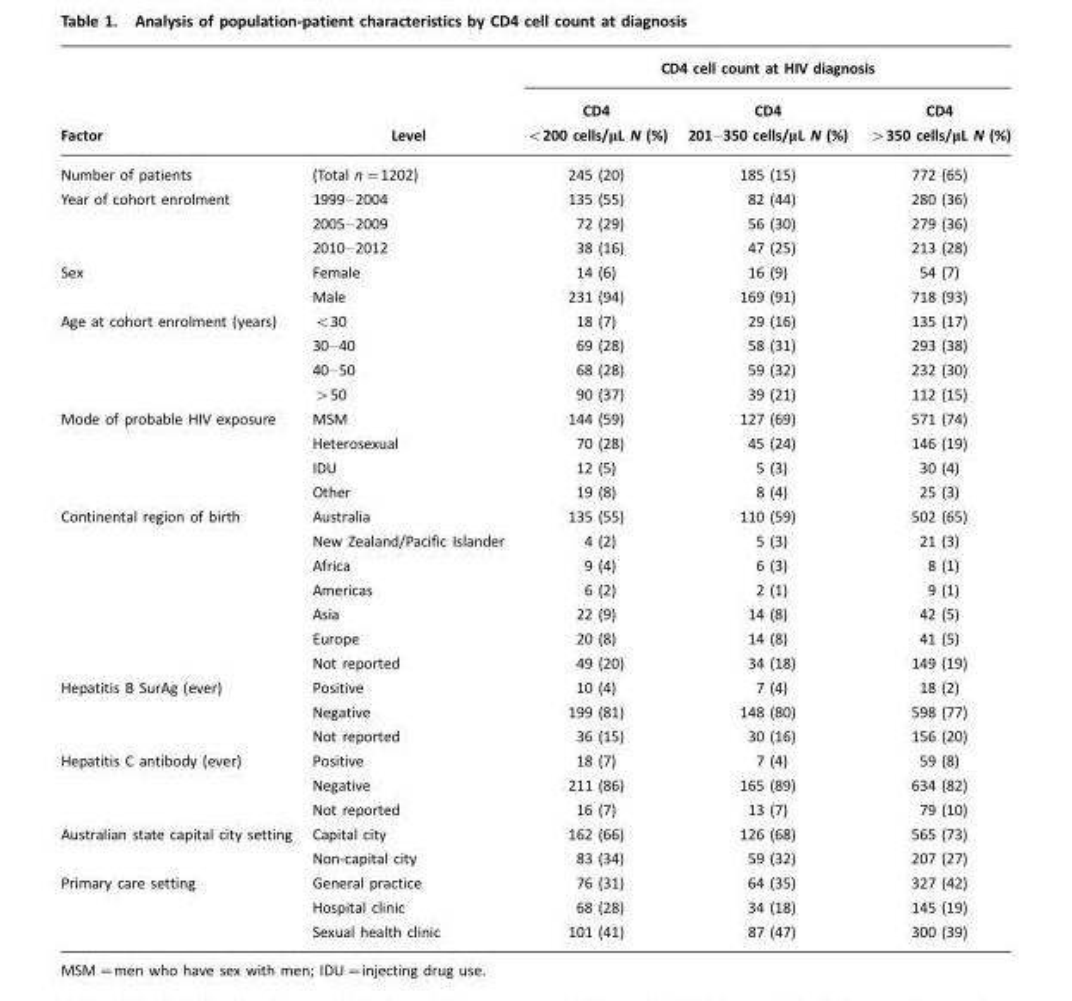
<table><thead><tr><td rowspan="2">Factor</td><td rowspan="2">Level</td><td colspan="3">CD4 cell count at HIV diagnosis</td></tr><tr><td>CD4 &lt;200 cells/µL N (%)</td><td>CD4 201–350 cells/µL N (%)</td><td>CD4 &gt;350 cells/µL N (%)</td></tr></thead><tbody><tr><td>Number of patients</td><td>(Total n=1202)</td><td>245 (20)</td><td>185 (15)</td><td>772 (65)</td></tr><tr><td rowspan="3">Year of cohort enrolment</td><td>1999–2004</td><td>135 (55)</td><td>82 (44)</td><td>280 (36)</td></tr><tr><td>2005–2009</td><td>72 (29)</td><td>56 (30)</td><td>279 (36)</td></tr><tr><td>2010–2012</td><td>38 (16)</td><td>47 (25)</td><td>213 (28)</td></tr><tr><td rowspan="2">Sex</td><td>Female</td><td>14 (6)</td><td>16 (9)</td><td>54 (7)</td></tr><tr><td>Male</td><td>231 (94)</td><td>169 (91)</td><td>718 (93)</td></tr><tr><td rowspan="4">Age at cohort enrolment (years)</td><td>&lt;30</td><td>18 (7)</td><td>29 (16)</td><td>135 (17)</td></tr><tr><td>30–40</td><td>69 (28)</td><td>58 (31)</td><td>293 (38)</td></tr><tr><td>40–50</td><td>68 (28)</td><td>59 (32)</td><td>232 (30)</td></tr><tr><td>&gt;50</td><td>90 (37)</td><td>39 (21)</td><td>112 (15)</td></tr><tr><td rowspan="4">Mode of probable HIV exposure</td><td>MSM</td><td>144 (59)</td><td>127 (69)</td><td>571 (74)</td></tr><tr><td>Heterosexual</td><td>70 (28)</td><td>45 (24)</td><td>146 (19)</td></tr><tr><td>IDU</td><td>12 (5)</td><td>5 (3)</td><td>30 (4)</td></tr><tr><td>Other</td><td>19 (8)</td><td>8 (4)</td><td>25 (3)</td></tr><tr><td rowspan="7">Continental region of birth</td><td>Australia</td><td>135 (55)</td><td>110 (59)</td><td>502 (65)</td></tr><tr><td>New Zealand/Pacific Islander</td><td>4 (2)</td><td>5 (3)</td><td>21 (3)</td></tr><tr><td>Africa</td><td>9 (4)</td><td>6 (3)</td><td>8 (1)</td></tr><tr><td>Americas</td><td>6 (2)</td><td>2 (1)</td><td>9 (1)</td></tr><tr><td>Asia</td><td>22 (9)</td><td>14 (8)</td><td>42 (5)</td></tr><tr><td>Europe</td><td>20 (8)</td><td>14 (8)</td><td>41 (5)</td></tr><tr><td>Not reported</td><td>49 (20)</td><td>34 (18)</td><td>149 (19)</td></tr><tr><td rowspan="3">Hepatitis B SurAg (ever)</td><td>Positive</td><td>10 (4)</td><td>7 (4)</td><td>18 (2)</td></tr><tr><td>Negative</td><td>199 (81)</td><td>148 (80)</td><td>598 (77)</td></tr><tr><td>Not reported</td><td>36 (15)</td><td>30 (16)</td><td>156 (20)</td></tr><tr><td rowspan="3">Hepatitis C antibody (ever)</td><td>Positive</td><td>18 (7)</td><td>7 (4)</td><td>59 (8)</td></tr><tr><td>Negative</td><td>211 (86)</td><td>165 (89)</td><td>634 (82)</td></tr><tr><td>Not reported</td><td>16 (7)</td><td>13 (7)</td><td>79 (10)</td></tr><tr><td rowspan="2">Australian state capital city setting</td><td>Capital city</td><td>162 (66)</td><td>126 (68)</td><td>565 (73)</td></tr><tr><td>Non-capital city</td><td>83 (34)</td><td>59 (32)</td><td>207 (27)</td></tr><tr><td rowspan="3">Primary care setting</td><td>General practice</td><td>76 (31)</td><td>64 (35)</td><td>327 (42)</td></tr><tr><td>Hospital clinic</td><td>68 (28)</td><td>34 (18)</td><td>145 (19)</td></tr><tr><td>Sexual health clinic</td><td>101 (41)</td><td>87 (47)</td><td>300 (39)</td></tr></tbody></table>